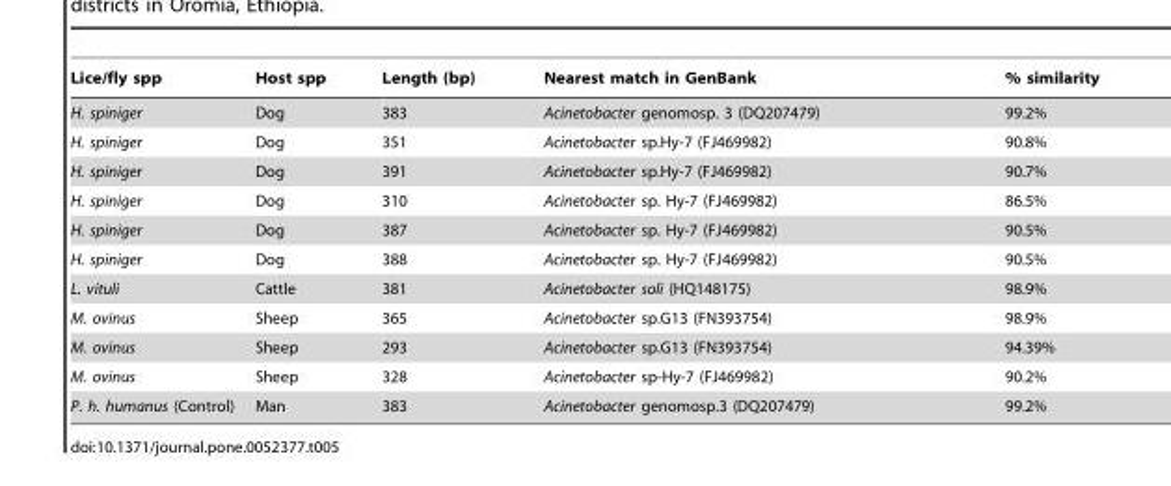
<table><thead><tr><td>Lice/fly spp</td><td>Host spp</td><td>Length (bp)</td><td>Nearest match in GenBank</td><td>% similarity</td></tr></thead><tbody><tr><td>H. spiniger</td><td>Dog</td><td>383</td><td>Acinetobacter genomosp. 3 (DQ207479)</td><td>99.2%</td></tr><tr><td>H. spiniger</td><td>Dog</td><td>351</td><td>Acinetobacter sp.Hy-7 (FJ469982)</td><td>90.8%</td></tr><tr><td>H. spiniger</td><td>Dog</td><td>391</td><td>Acinetobacter sp.Hy-7 (FJ469982)</td><td>90.7%</td></tr><tr><td>H. spiniger</td><td>Dog</td><td>310</td><td>Acinetobacter sp. Hy-7 (FJ469982)</td><td>86.5%</td></tr><tr><td>H. spiniger</td><td>Dog</td><td>387</td><td>Acinetobacter sp. Hy-7 (FJ469982)</td><td>90.5%</td></tr><tr><td>H. spiniger</td><td>Dog</td><td>388</td><td>Acinetobacter sp. Hy-7 (FJ469982)</td><td>90.5%</td></tr><tr><td>L. vituli</td><td>Cattle</td><td>381</td><td>Acinetobacter soli (HQ148175)</td><td>98.9%</td></tr><tr><td>M. ovinus</td><td>Sheep</td><td>365</td><td>Acinetobacter sp.G13 (FN393754)</td><td>98.9%</td></tr><tr><td>M. ovinus</td><td>Sheep</td><td>293</td><td>Acinetobacter sp.G13 (FN393754)</td><td>94.39%</td></tr><tr><td>M. ovinus</td><td>Sheep</td><td>328</td><td>Acinetobacter sp-Hy-7 (FJ469982)</td><td>90.2%</td></tr><tr><td>P. h. humanus (Control)</td><td>Man</td><td>383</td><td>Acinetobacter genomosp.3 (DQ207479)</td><td>99.2%</td></tr></tbody></table>